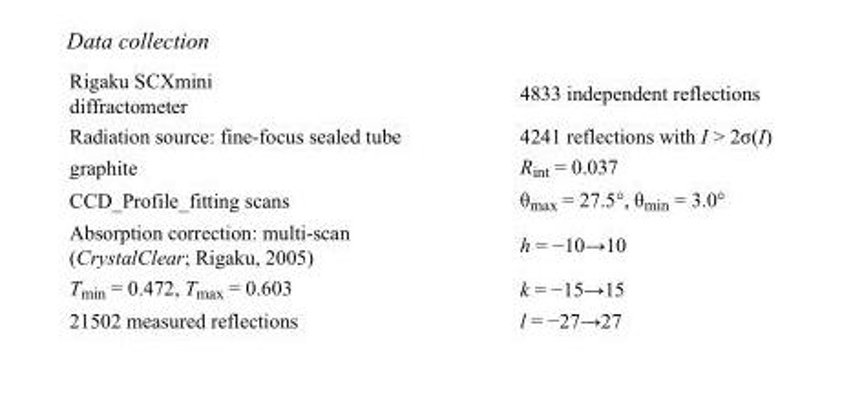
<table><tbody><tr><td>Rigaku SCXmini diffractometer</td><td>4833 independent reflections</td></tr><tr><td>Radiation source: fine-focus sealed tube</td><td>4241 reflections with I &gt; 2σ(I)</td></tr><tr><td>graphite</td><td>R<sub>int</sub> = 0.037</td></tr><tr><td>CCD_Profile_fitting scans</td><td>θ<sub>max</sub> = 27.5°, θ<sub>min</sub> = 3.0°</td></tr><tr><td>Absorption correction: multi-scan (CrystalClear; Rigaku, 2005)</td><td>h = −10→10</td></tr><tr><td>T<sub>min</sub> = 0.472, T<sub>max</sub> = 0.603</td><td>k = −15→15</td></tr><tr><td>21502 measured reflections</td><td>l = −27→27</td></tr></tbody></table>